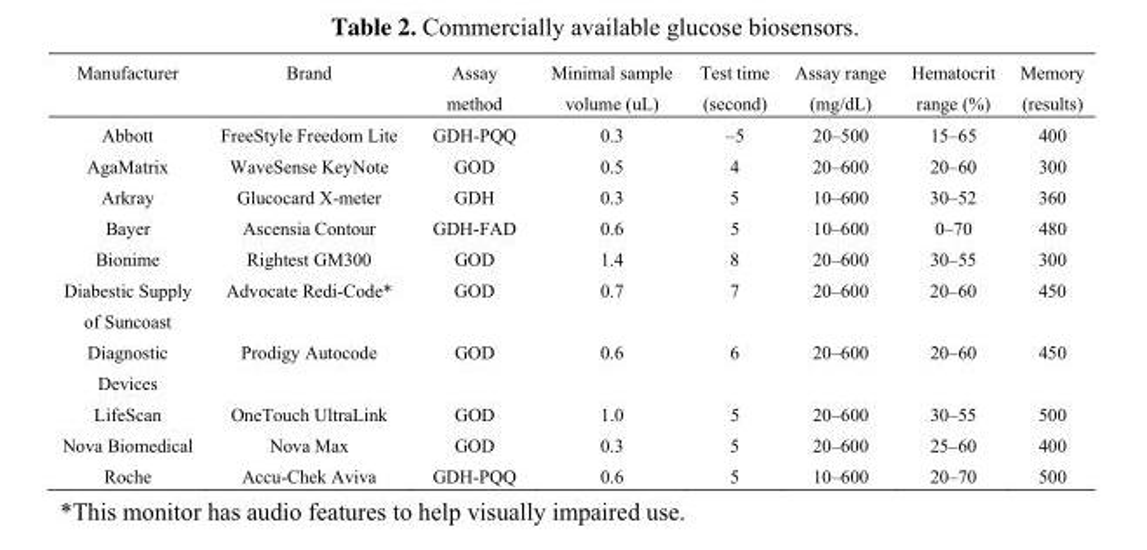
<table><thead><tr><td>Manufacturer</td><td>Brand</td><td>Assay method</td><td>Minimal sample volume (uL)</td><td>Test time (second)</td><td>Assay range (mg/dL)</td><td>Hematocrit range (%)</td><td>Memory (results)</td></tr></thead><tbody><tr><td>Abbott</td><td>FreeStyle Freedom Lite</td><td>GDH-PQQ</td><td>0.3</td><td>–5</td><td>20–500</td><td>15–65</td><td>400</td></tr><tr><td>AgaMatrix</td><td>WaveSense KeyNote</td><td>GOD</td><td>0.5</td><td>4</td><td>20–600</td><td>20–60</td><td>300</td></tr><tr><td>Arkray</td><td>Glucocard X-meter</td><td>GDH</td><td>0.3</td><td>5</td><td>10–600</td><td>30–52</td><td>360</td></tr><tr><td>Bayer</td><td>Ascensia Contour</td><td>GDH-FAD</td><td>0.6</td><td>5</td><td>10–600</td><td>0–70</td><td>480</td></tr><tr><td>Bionime</td><td>Rightest GM300</td><td>GOD</td><td>1.4</td><td>8</td><td>20–600</td><td>30–55</td><td>300</td></tr><tr><td>Diabestic Supply of Suncoast</td><td>Advocate Redi-Code*</td><td>GOD</td><td>0.7</td><td>7</td><td>20–600</td><td>20–60</td><td>450</td></tr><tr><td>Diagnostic Devices</td><td>Prodigy Autocode</td><td>GOD</td><td>0.6</td><td>6</td><td>20–600</td><td>20–60</td><td>450</td></tr><tr><td>LifeScan</td><td>OneTouch UltraLink</td><td>GOD</td><td>1.0</td><td>5</td><td>20–600</td><td>30–55</td><td>500</td></tr><tr><td>Nova Biomedical</td><td>Nova Max</td><td>GOD</td><td>0.3</td><td>5</td><td>20–600</td><td>25–60</td><td>400</td></tr><tr><td>Roche</td><td>Accu-Chek Aviva</td><td>GDH-PQQ</td><td>0.6</td><td>5</td><td>10–600</td><td>20–70</td><td>500</td></tr></tbody></table>